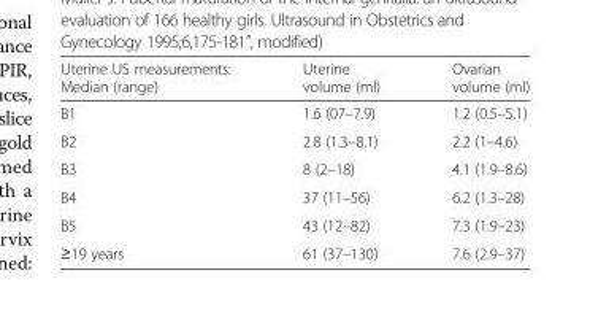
<table><thead><tr><td>Uterine US measurements: Median (range)</td><td>Uterine volume (ml)</td><td>Ovarian volume (ml)</td></tr></thead><tbody><tr><td>B1</td><td>1.6 (07–7.9)</td><td>1.2 (0.5–5.1)</td></tr><tr><td>B2</td><td>2.8 (1.3–8.1)</td><td>2.2 (1–4.6)</td></tr><tr><td>B3</td><td>8 (2–18)</td><td>4.1 (1.9–8.6)</td></tr><tr><td>B4</td><td>37 (11–56)</td><td>6.2 (1.3–28)</td></tr><tr><td>B5</td><td>43 (12–82)</td><td>7.3 (1.9–23)</td></tr><tr><td>≥19 years</td><td>61 (37–130)</td><td>7.6 (2.9–37)</td></tr></tbody></table>